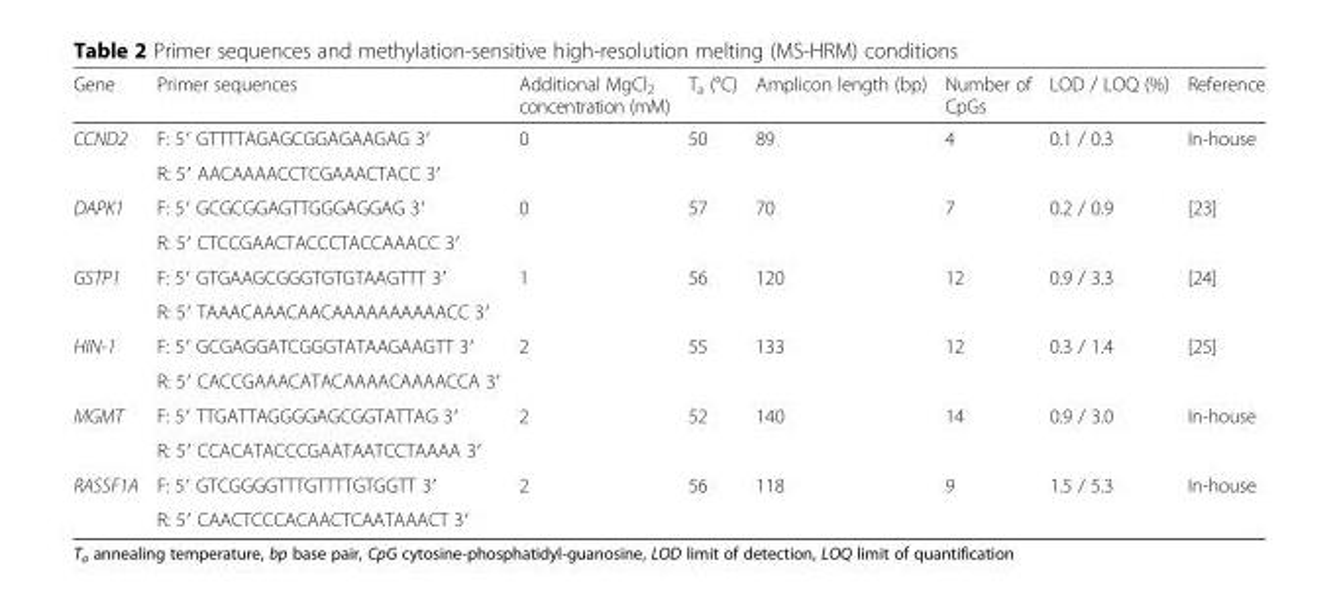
<table><thead><tr><td>Gene</td><td>Primer sequences</td><td>Additional MgCl<sub>2</sub> concentration (mM)</td><td>T<sub>a</sub> (°C)</td><td>Amplicon length (bp)</td><td>Number of CpGs</td><td>LOD / LOQ (%)</td><td>Reference</td></tr></thead><tbody><tr><td rowspan="2">CCND2</td><td>F: 5′ GTTTTAGAGCGGAGAAGAG 3′</td><td rowspan="2">0</td><td rowspan="2">50</td><td rowspan="2">89</td><td rowspan="2">4</td><td rowspan="2">0.1 / 0.3</td><td rowspan="2">In-house</td></tr><tr><td>R: 5′ AACAAAACCTCGAAACTACC 3′</td></tr><tr><td rowspan="2">DAPK1</td><td>F: 5′ GCGCGGAGTTGGGAGGAG 3′</td><td rowspan="2">0</td><td rowspan="2">57</td><td rowspan="2">70</td><td rowspan="2">7</td><td rowspan="2">0.2 / 0.9</td><td rowspan="2">[23]</td></tr><tr><td>R: 5′ CTCCGAACTACCCTACCAAACC 3′</td></tr><tr><td rowspan="2">GSTP1</td><td>F: 5′ GTGAAGCGGGTGTGTAAGTTT 3′</td><td rowspan="2">1</td><td rowspan="2">56</td><td rowspan="2">120</td><td rowspan="2">12</td><td rowspan="2">0.9 / 3.3</td><td rowspan="2">[24]</td></tr><tr><td>R: 5′ TAAACAAACAACAAAAAAAAAACC 3′</td></tr><tr><td rowspan="2">HIN-1</td><td>F: 5′ GCGAGGATCGGGTATAAGAAGTT 3′</td><td rowspan="2">2</td><td rowspan="2">55</td><td rowspan="2">133</td><td rowspan="2">12</td><td rowspan="2">0.3 / 1.4</td><td rowspan="2">[25]</td></tr><tr><td>R: 5′ CACCGAAACATACAAAACAAAACCA 3′</td></tr><tr><td rowspan="2">MGMT</td><td>F: 5′ TTGATTAGGGGAGCGGTATTAG 3′</td><td rowspan="2">2</td><td rowspan="2">52</td><td rowspan="2">140</td><td rowspan="2">14</td><td rowspan="2">0.9 / 3.0</td><td rowspan="2">In-house</td></tr><tr><td>R: 5′ CCACATACCCGAATAATCCTAAAA 3′</td></tr><tr><td rowspan="2">RASSF1A</td><td>F: 5′ GTCGGGGTTTGTTTTGTGGTT 3′</td><td rowspan="2">2</td><td rowspan="2">56</td><td rowspan="2">118</td><td rowspan="2">9</td><td rowspan="2">1.5 / 5.3</td><td rowspan="2">In-house</td></tr><tr><td>R: 5′ CAACTCCCACAACTCAATAAACT 3′</td></tr></tbody></table>